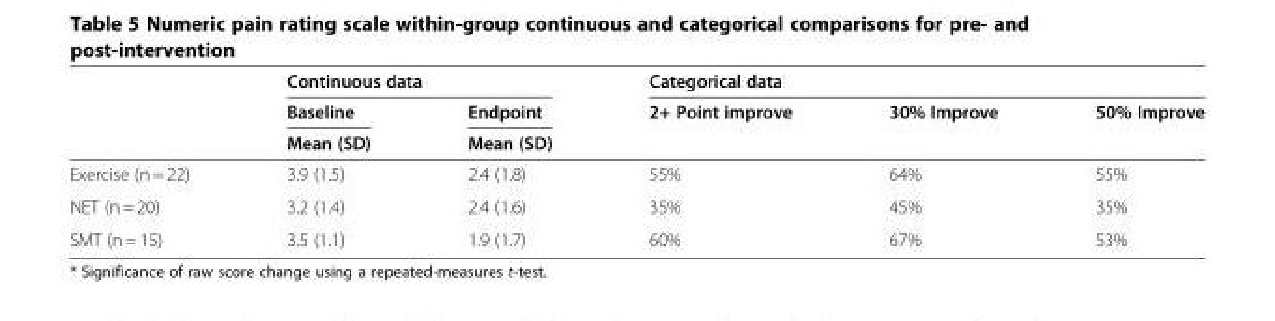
<table><thead><tr><td rowspan="3"></td><td colspan="2">Continuous data</td><td colspan="3">Categorical data</td></tr><tr><td rowspan="2">Baseline Mean (SD)</td><td rowspan="2">Endpoint Mean (SD)</td><td rowspan="2">2+ Point improve</td><td rowspan="2">30% Improve</td><td rowspan="2">50% Improve</td></tr><tr></tr></thead><tbody><tr><td>Exercise (n = 22)</td><td>3.9 (1.5)</td><td>2.4 (1.8)</td><td>55%</td><td>64%</td><td>55%</td></tr><tr><td>NET (n = 20)</td><td>3.2 (1.4)</td><td>2.4 (1.6)</td><td>35%</td><td>45%</td><td>35%</td></tr><tr><td>SMT (n = 15)</td><td>3.5 (1.1)</td><td>1.9 (1.7)</td><td>60%</td><td>67%</td><td>53%</td></tr></tbody></table>